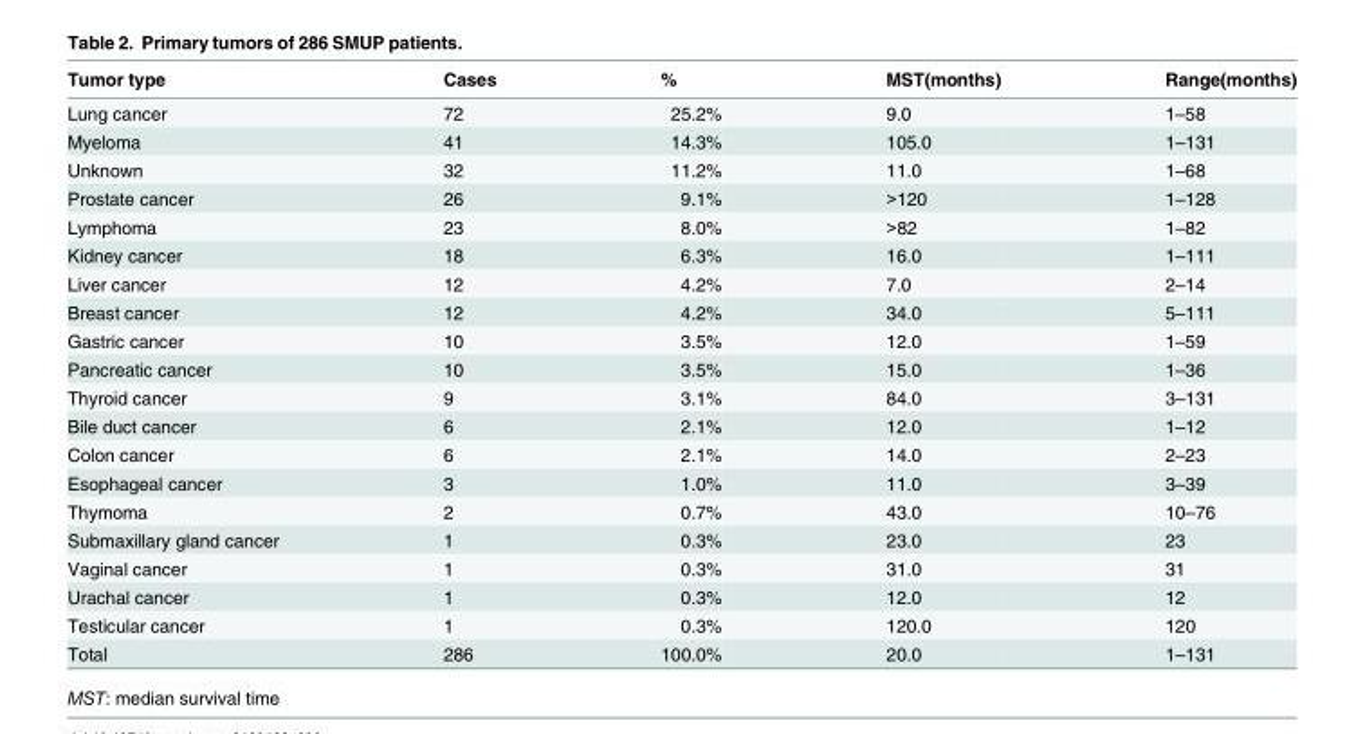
<table><thead><tr><td>Tumor type</td><td>Cases</td><td>%</td><td>MST(months)</td><td>Range(months)</td></tr></thead><tbody><tr><td>Lung cancer</td><td>72</td><td>25.2%</td><td>9.0</td><td>1–58</td></tr><tr><td>Myeloma</td><td>41</td><td>14.3%</td><td>105.0</td><td>1–131</td></tr><tr><td>Unknown</td><td>32</td><td>11.2%</td><td>11.0</td><td>1–68</td></tr><tr><td>Prostate cancer</td><td>26</td><td>9.1%</td><td>&gt;120</td><td>1–128</td></tr><tr><td>Lymphoma</td><td>23</td><td>8.0%</td><td>&gt;82</td><td>1–82</td></tr><tr><td>Kidney cancer</td><td>18</td><td>6.3%</td><td>16.0</td><td>1–111</td></tr><tr><td>Liver cancer</td><td>12</td><td>4.2%</td><td>7.0</td><td>2–14</td></tr><tr><td>Breast cancer</td><td>12</td><td>4.2%</td><td>34.0</td><td>5–111</td></tr><tr><td>Gastric cancer</td><td>10</td><td>3.5%</td><td>12.0</td><td>1–59</td></tr><tr><td>Pancreatic cancer</td><td>10</td><td>3.5%</td><td>15.0</td><td>1–36</td></tr><tr><td>Thyroid cancer</td><td>9</td><td>3.1%</td><td>84.0</td><td>3–131</td></tr><tr><td>Bile duct cancer</td><td>6</td><td>2.1%</td><td>12.0</td><td>1–12</td></tr><tr><td>Colon cancer</td><td>6</td><td>2.1%</td><td>14.0</td><td>2–23</td></tr><tr><td>Esophageal cancer</td><td>3</td><td>1.0%</td><td>11.0</td><td>3–39</td></tr><tr><td>Thymoma</td><td>2</td><td>0.7%</td><td>43.0</td><td>10–76</td></tr><tr><td>Submaxillary gland cancer</td><td>1</td><td>0.3%</td><td>23.0</td><td>23</td></tr><tr><td>Vaginal cancer</td><td>1</td><td>0.3%</td><td>31.0</td><td>31</td></tr><tr><td>Urachal cancer</td><td>1</td><td>0.3%</td><td>12.0</td><td>12</td></tr><tr><td>Testicular cancer</td><td>1</td><td>0.3%</td><td>120.0</td><td>120</td></tr><tr><td>Total</td><td>286</td><td>100.0%</td><td>20.0</td><td>1–131</td></tr></tbody></table>